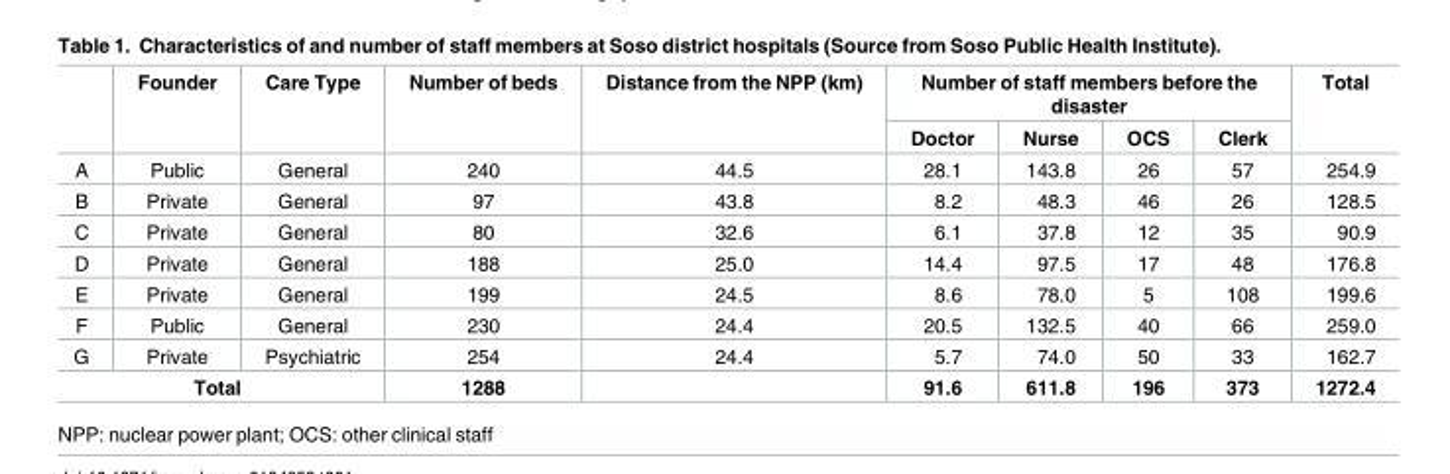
<table><thead><tr><td rowspan="2"></td><td rowspan="2">Founder</td><td rowspan="2">Care Type</td><td rowspan="2">Number of beds</td><td rowspan="2">Distance from the NPP (km)</td><td colspan="4">Number of staff members before the disaster</td><td rowspan="2">Total</td></tr><tr><td>Doctor</td><td>Nurse</td><td>OCS</td><td>Clerk</td></tr></thead><tbody><tr><td>A</td><td>Public</td><td>General</td><td>240</td><td>44.5</td><td>28.1</td><td>143.8</td><td>26</td><td>57</td><td>254.9</td></tr><tr><td>B</td><td>Private</td><td>General</td><td>97</td><td>43.8</td><td>8.2</td><td>48.3</td><td>46</td><td>26</td><td>128.5</td></tr><tr><td>C</td><td>Private</td><td>General</td><td>80</td><td>32.6</td><td>6.1</td><td>37.8</td><td>12</td><td>35</td><td>90.9</td></tr><tr><td>D</td><td>Private</td><td>General</td><td>188</td><td>25.0</td><td>14.4</td><td>97.5</td><td>17</td><td>48</td><td>176.8</td></tr><tr><td>E</td><td>Private</td><td>General</td><td>199</td><td>24.5</td><td>8.6</td><td>78.0</td><td>5</td><td>108</td><td>199.6</td></tr><tr><td>F</td><td>Public</td><td>General</td><td>230</td><td>24.4</td><td>20.5</td><td>132.5</td><td>40</td><td>66</td><td>259.0</td></tr><tr><td>G</td><td>Private</td><td>Psychiatric</td><td>254</td><td>24.4</td><td>5.7</td><td>74.0</td><td>50</td><td>33</td><td>162.7</td></tr><tr><td colspan="3">Total</td><td>1288</td><td></td><td>91.6</td><td>611.8</td><td>196</td><td>373</td><td>1272.4</td></tr></tbody></table>